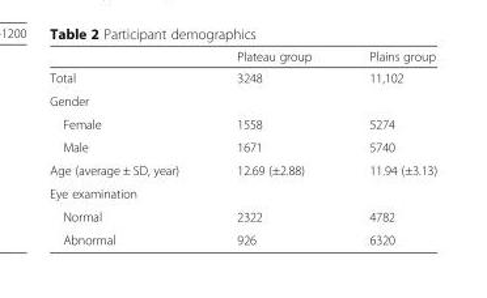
<table><thead><tr><td></td><td>Plateau group</td><td>Plains group</td></tr></thead><tbody><tr><td>Total</td><td>3248</td><td>11,102</td></tr><tr><td colspan="3">Gender</td></tr><tr><td>Female</td><td>1558</td><td>5274</td></tr><tr><td>Male</td><td>1671</td><td>5740</td></tr><tr><td>Age (average ± SD, year)</td><td>12.69 (±2.88)</td><td>11.94 (±3.13)</td></tr><tr><td colspan="3">Eye examination</td></tr><tr><td>Normal</td><td>2322</td><td>4782</td></tr><tr><td>Abnormal</td><td>926</td><td>6320</td></tr></tbody></table>